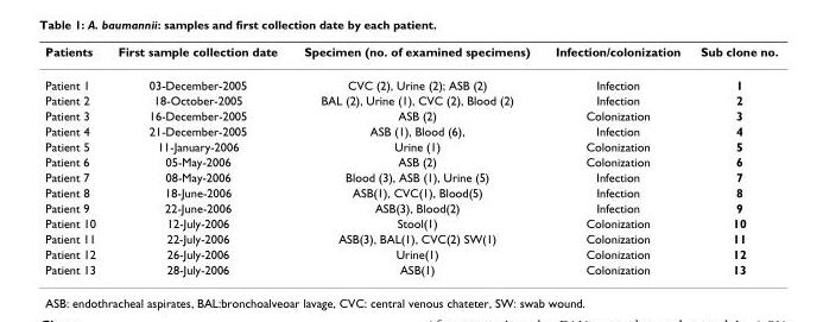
<table><thead><tr><td>Patients</td><td>First sample collection date</td><td>Specimen (no. of examined specimens)</td><td>Infection/colonization</td><td>Sub clone no.</td></tr></thead><tbody><tr><td>Patient 1</td><td>03-December-2005</td><td>CVC (2), Urine (2); ASB (2)</td><td>Infection</td><td>1</td></tr><tr><td>Patient 2</td><td>18-October-2005</td><td>BAL (2), Urine (1), CVC (2), Blood (2)</td><td>Infection</td><td>2</td></tr><tr><td>Patient 3</td><td>16-December-2005</td><td>ASB (2)</td><td>Colonization</td><td>3</td></tr><tr><td>Patient 4</td><td>21-December-2005</td><td>ASB (1), Blood (6),</td><td>Infection</td><td>4</td></tr><tr><td>Patient 5</td><td>11-January-2006</td><td>Urine (1)</td><td>Colonization</td><td>5</td></tr><tr><td>Patient 6</td><td>05-May-2006</td><td>ASB (2)</td><td>Colonization</td><td>6</td></tr><tr><td>Patient 7</td><td>08-May-2006</td><td>Blood (3), ASB (1), Urine (5)</td><td>Infection</td><td>7</td></tr><tr><td>Patient 8</td><td>18-June-2006</td><td>ASB(1), CVC(1), Blood(5)</td><td>Infection</td><td>8</td></tr><tr><td>Patient 9</td><td>22-June-2006</td><td>ASB(3), Blood(2)</td><td>Infection</td><td>9</td></tr><tr><td>Patient 10</td><td>12-July-2006</td><td>Stool(1)</td><td>Colonization</td><td>10</td></tr><tr><td>Patient 11</td><td>22-July-2006</td><td>ASB(3), BAL(1), CVC(2) SW(1)</td><td>Colonization</td><td>11</td></tr><tr><td>Patient 12</td><td>26-July-2006</td><td>Urine(1)</td><td>Colonization</td><td>12</td></tr><tr><td>Patient 13</td><td>28-July-2006</td><td>ASB(1)</td><td>Colonization</td><td>13</td></tr></tbody></table>